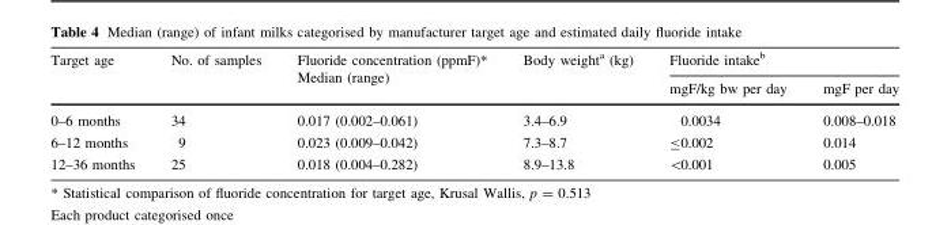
<table><thead><tr><td rowspan="2">Target age</td><td rowspan="2">No. of samples</td><td rowspan="2">Fluoride concentration (ppmF)* Median (range)</td><td rowspan="2">Body weight<sup>a</sup> (kg)</td><td colspan="2">Fluoride intake<sup>b</sup></td></tr><tr><td>mgF/kg bw per day</td><td>mgF per day</td></tr></thead><tbody><tr><td>0–6 months</td><td>34</td><td>0.017 (0.002–0.061)</td><td>3.4–6.9</td><td>0.0034</td><td>0.008–0.018</td></tr><tr><td>6–12 months</td><td>9</td><td>0.023 (0.009–0.042)</td><td>7.3–8.7</td><td>≤0.002</td><td>0.014</td></tr><tr><td>12–36 months</td><td>25</td><td>0.018 (0.004–0.282)</td><td>8.9–13.8</td><td>&lt;0.001</td><td>0.005</td></tr></tbody></table>